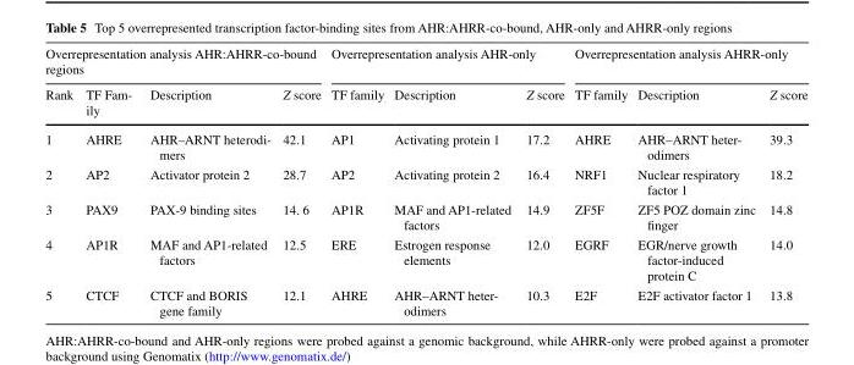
<table><thead><tr><td colspan="4">Overrepresentation analysis AHR:AHRR-co-bound regions</td><td colspan="3">Overrepresentation analysis AHR-only</td><td colspan="3">Overrepresentation analysis AHRR-only</td></tr><tr><td>Rank</td><td>TF Fam- ily</td><td>Description</td><td>Z score</td><td>TF family</td><td>Description</td><td>Z score</td><td>TF family</td><td>Description</td><td>Z score</td></tr></thead><tbody><tr><td>1</td><td>AHRE</td><td>AHR–ARNT heterodi- mers</td><td>42.1</td><td>AP1</td><td>Activating protein 1</td><td>17.2</td><td>AHRE</td><td>AHR–ARNT heter- odimers</td><td>39.3</td></tr><tr><td>2</td><td>AP2</td><td>Activator protein 2</td><td>28.7</td><td>AP2</td><td>Activating protein 2</td><td>16.4</td><td>NRF1</td><td>Nuclear respiratory factor 1</td><td>18.2</td></tr><tr><td>3</td><td>PAX9</td><td>PAX-9 binding sites</td><td>14. 6</td><td>AP1R</td><td>MAF and AP1-related factors</td><td>14.9</td><td>ZF5F</td><td>ZF5 POZ domain zinc finger</td><td>14.8</td></tr><tr><td>4</td><td>AP1R</td><td>MAF and AP1-related factors</td><td>12.5</td><td>ERE</td><td>Estrogen response elements</td><td>12.0</td><td>EGRF</td><td>EGR/nerve growth factor-induced protein C</td><td>14.0</td></tr><tr><td>5</td><td>CTCF</td><td>CTCF and BORIS gene family</td><td>12.1</td><td>AHRE</td><td>AHR–ARNT heter- odimers</td><td>10.3</td><td>E2F</td><td>E2F activator factor 1</td><td>13.8</td></tr></tbody></table>